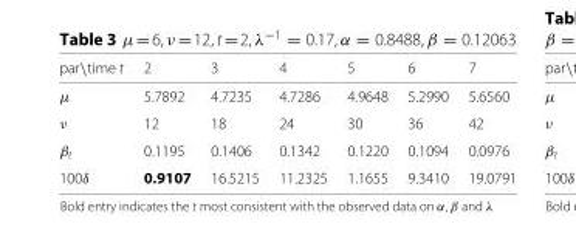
<table><thead><tr><td>par\time t</td><td>2</td><td>3</td><td>4</td><td>5</td><td>6</td><td>7</td></tr></thead><tbody><tr><td>μ</td><td>5.7892</td><td>4.7235</td><td>4.7286</td><td>4.9648</td><td>5.2990</td><td>5.6560</td></tr><tr><td>ν</td><td>12</td><td>18</td><td>24</td><td>30</td><td>36</td><td>42</td></tr><tr><td>β<sub>t</sub></td><td>0.1195</td><td>0.1406</td><td>0.1342</td><td>0.1220</td><td>0.1094</td><td>0.0976</td></tr><tr><td>100δ</td><td>0.9107</td><td>16.5215</td><td>11.2325</td><td>1.1655</td><td>9.3410</td><td>19.0791</td></tr></tbody></table>